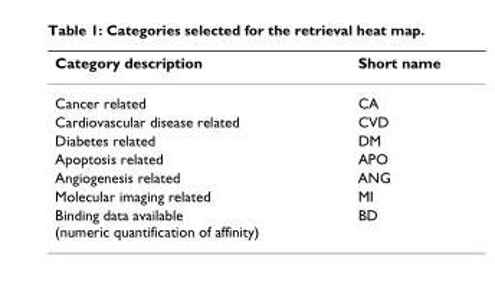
<table><thead><tr><td>Category description</td><td>Short name</td></tr></thead><tbody><tr><td>Cancer related</td><td>CA</td></tr><tr><td>Cardiovascular disease related</td><td>CVD</td></tr><tr><td>Diabetes related</td><td>DM</td></tr><tr><td>Apoptosis related</td><td>APO</td></tr><tr><td>Angiogenesis related</td><td>ANG</td></tr><tr><td>Molecular imaging related</td><td>MI</td></tr><tr><td>Binding data available (numeric quantification of affinity)</td><td>BD</td></tr></tbody></table>